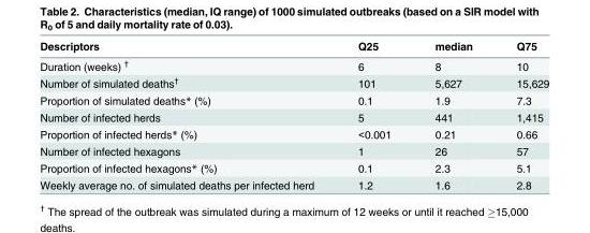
<table><thead><tr><td>Descriptors</td><td>Q25</td><td>median</td><td>Q75</td></tr></thead><tbody><tr><td>Duration (weeks) <sup>†</sup></td><td>6</td><td>8</td><td>10</td></tr><tr><td>Number of simulated deaths<sup>†</sup></td><td>101</td><td>5,627</td><td>15,629</td></tr><tr><td>Proportion of simulated deaths* (%)</td><td>0.1</td><td>1.9</td><td>7.3</td></tr><tr><td>Number of infected herds</td><td>5</td><td>441</td><td>1,415</td></tr><tr><td>Proportion of infected herds* (%)</td><td>&lt;0.001</td><td>0.21</td><td>0.66</td></tr><tr><td>Number of infected hexagons</td><td>1</td><td>26</td><td>57</td></tr><tr><td>Proportion of infected hexagons* (%)</td><td>0.1</td><td>2.3</td><td>5.1</td></tr><tr><td>Weekly average no. of simulated deaths per infected herd</td><td>1.2</td><td>1.6</td><td>2.8</td></tr></tbody></table>